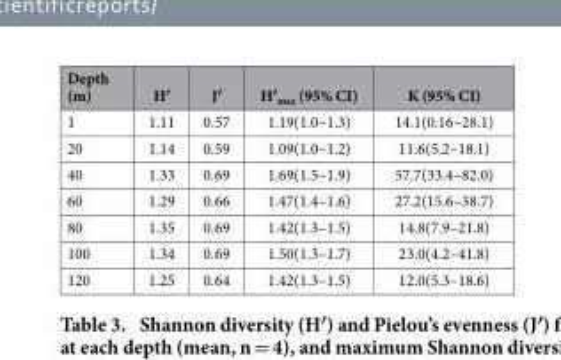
<table><thead><tr><td>Depth (m)</td><td>H′</td><td>J′</td><td>H′<sub>max</sub> (95% CI)</td><td>K (95% CI)</td></tr></thead><tbody><tr><td>1</td><td>1.11</td><td>0.57</td><td>1.19(1.0–1.3)</td><td>14.1(0.16–28.1)</td></tr><tr><td>20</td><td>1.14</td><td>0.59</td><td>1.09(1.0–1.2)</td><td>11.6(5.2–18.1)</td></tr><tr><td>40</td><td>1.33</td><td>0.69</td><td>1.69(1.5–1.9)</td><td>57.7(33.4–82.0)</td></tr><tr><td>60</td><td>1.29</td><td>0.66</td><td>1.47(1.4–1.6)</td><td>27.2(15.6–38.7)</td></tr><tr><td>80</td><td>1.35</td><td>0.69</td><td>1.42(1.3–1.5)</td><td>14.8(7.9–21.8)</td></tr><tr><td>100</td><td>1.34</td><td>0.69</td><td>1.50(1.3–1.7)</td><td>23.0(4.2–41.8)</td></tr><tr><td>120</td><td>1.25</td><td>0.64</td><td>1.42(1.3–1.5)</td><td>12.0(5.3–18.6)</td></tr></tbody></table>